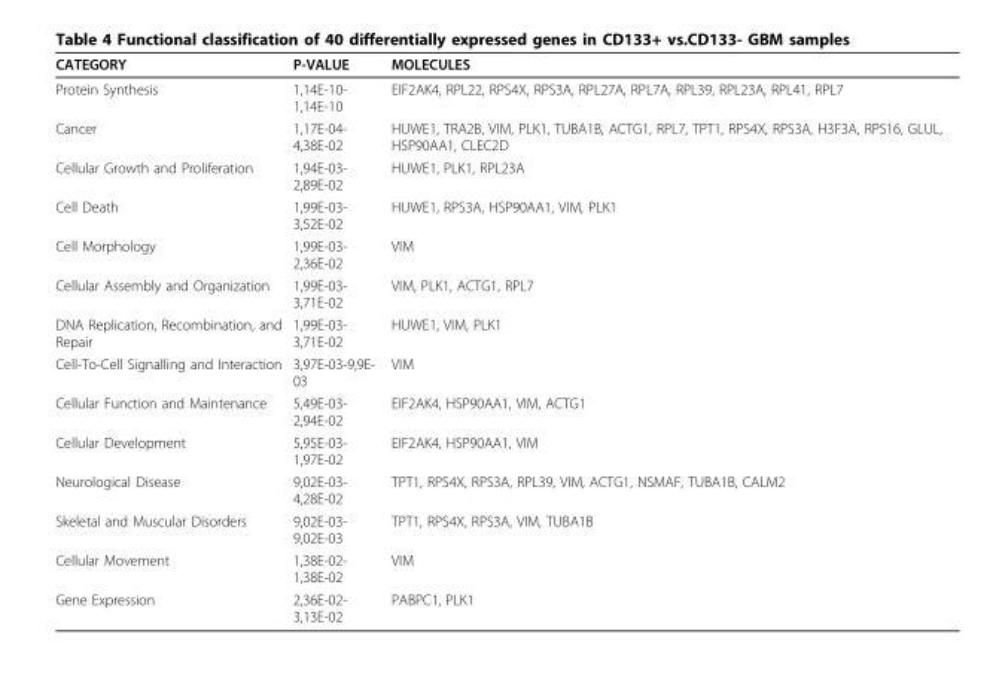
<table><thead><tr><td>CATEGORY</td><td>P-VALUE</td><td>MOLECULES</td></tr></thead><tbody><tr><td>Protein Synthesis</td><td>1,14E-10- 1,14E-10</td><td>EIF2AK4, RPL22, RPS4X, RPS3A, RPL27A, RPL7A, RPL39, RPL23A, RPL41, RPL7</td></tr><tr><td>Cancer</td><td>1,17E-04- 4,38E-02</td><td>HUWE1, TRA2B, VIM, PLK1, TUBA1B, ACTG1, RPL7, TPT1, RPS4X, RPS3A, H3F3A, RPS16, GLUL, HSP90AA1, CLEC2D</td></tr><tr><td>Cellular Growth and Proliferation</td><td>1,94E-03- 2,89E-02</td><td>HUWE1, PLK1, RPL23A</td></tr><tr><td>Cell Death</td><td>1,99E-03- 3,52E-02</td><td>HUWE1, RPS3A, HSP90AA1, VIM, PLK1</td></tr><tr><td>Cell Morphology</td><td>1,99E-03- 2,36E-02</td><td>VIM</td></tr><tr><td>Cellular Assembly and Organization</td><td>1,99E-03- 3,71E-02</td><td>VIM, PLK1, ACTG1, RPL7</td></tr><tr><td>DNA Replication, Recombination, and Repair</td><td>1,99E-03- 3,71E-02</td><td>HUWE1, VIM, PLK1</td></tr><tr><td>Cell-To-Cell Signalling and Interaction</td><td>3,97E-03-9,9E- 03</td><td>VIM</td></tr><tr><td>Cellular Function and Maintenance</td><td>5,49E-03- 2,94E-02</td><td>EIF2AK4, HSP90AA1, VIM, ACTG1</td></tr><tr><td>Cellular Development</td><td>5,95E-03- 1,97E-02</td><td>EIF2AK4, HSP90AA1, VIM</td></tr><tr><td>Neurological Disease</td><td>9,02E-03- 4,28E-02</td><td>TPT1, RPS4X, RPS3A, RPL39, VIM, ACTG1, NSMAF, TUBA1B, CALM2</td></tr><tr><td>Skeletal and Muscular Disorders</td><td>9,02E-03- 9,02E-03</td><td>TPT1, RPS4X, RPS3A, VIM, TUBA1B</td></tr><tr><td>Cellular Movement</td><td>1,38E-02- 1,38E-02</td><td>VIM</td></tr><tr><td>Gene Expression</td><td>2,36E-02- 3,13E-02</td><td>PABPC1, PLK1</td></tr></tbody></table>